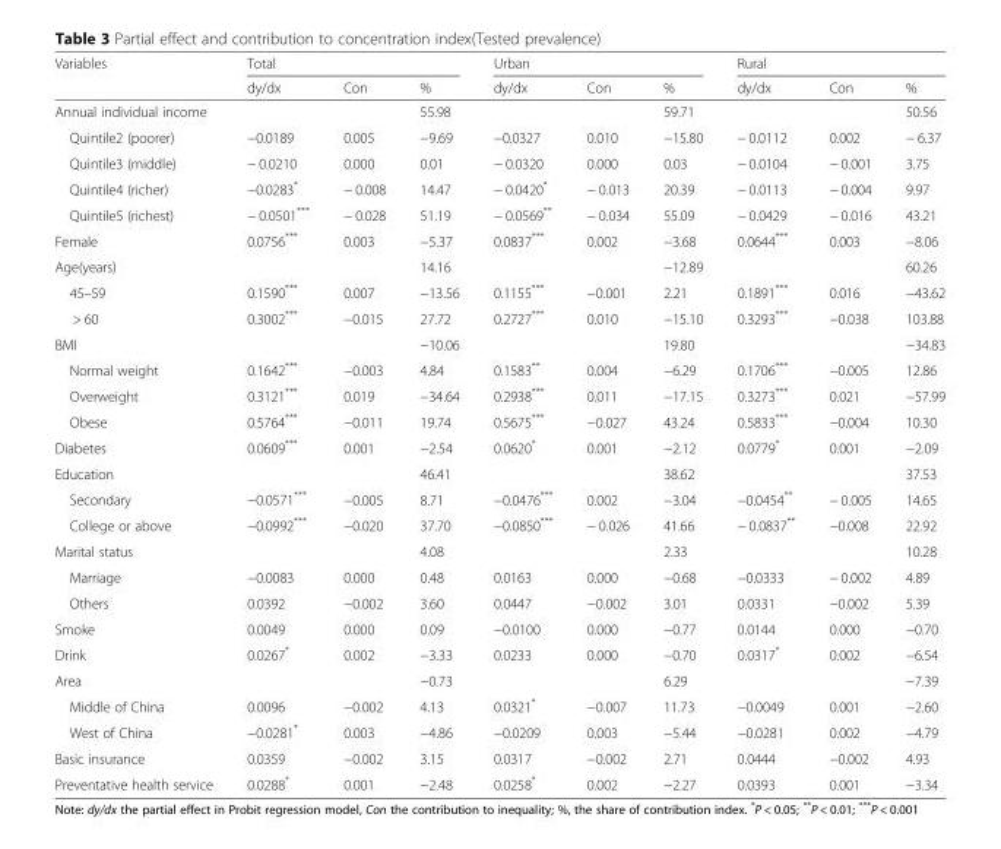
<table><thead><tr><td rowspan="2">Variables</td><td colspan="3">Total</td><td colspan="3">Urban</td><td colspan="3">Rural</td></tr><tr><td>dy/dx</td><td>Con</td><td>%</td><td>dy/dx</td><td>Con</td><td>%</td><td>dy/dx</td><td>Con</td><td>%</td></tr></thead><tbody><tr><td>Annual individual income</td><td></td><td></td><td>55.98</td><td></td><td></td><td>59.71</td><td></td><td></td><td>50.56</td></tr><tr><td>Quintile2 (poorer)</td><td>−0.0189</td><td>0.005</td><td>−9.69</td><td>−0.0327</td><td>0.010</td><td>−15.80</td><td>− 0.0112</td><td>0.002</td><td>− 6.37</td></tr><tr><td>Quintile3 (middle)</td><td>− 0.0210</td><td>0.000</td><td>0.01</td><td>− 0.0320</td><td>0.000</td><td>0.03</td><td>− 0.0104</td><td>− 0.001</td><td>3.75</td></tr><tr><td>Quintile4 (richer)</td><td>−0.0283*</td><td>− 0.008</td><td>14.47</td><td>− 0.0420*</td><td>− 0.013</td><td>20.39</td><td>− 0.0113</td><td>− 0.004</td><td>9.97</td></tr><tr><td>Quintile5 (richest)</td><td>− 0.0501***</td><td>− 0.028</td><td>51.19</td><td>− 0.0569**</td><td>− 0.034</td><td>55.09</td><td>− 0.0429</td><td>− 0.016</td><td>43.21</td></tr><tr><td>Female</td><td>0.0756***</td><td>0.003</td><td>−5.37</td><td>0.0837***</td><td>0.002</td><td>−3.68</td><td>0.0644***</td><td>0.003</td><td>−8.06</td></tr><tr><td>Age(years)</td><td></td><td></td><td>14.16</td><td></td><td></td><td>−12.89</td><td></td><td></td><td>60.26</td></tr><tr><td>45–59</td><td>0.1590***</td><td>0.007</td><td>−13.56</td><td>0.1155***</td><td>−0.001</td><td>2.21</td><td>0.1891***</td><td>0.016</td><td>−43.62</td></tr><tr><td>&gt; 60</td><td>0.3002***</td><td>−0.015</td><td>27.72</td><td>0.2727***</td><td>0.010</td><td>−15.10</td><td>0.3293***</td><td>−0.038</td><td>103.88</td></tr><tr><td>BMI</td><td></td><td></td><td>−10.06</td><td></td><td></td><td>19.80</td><td></td><td></td><td>−34.83</td></tr><tr><td>Normal weight</td><td>0.1642***</td><td>−0.003</td><td>4.84</td><td>0.1583**</td><td>0.004</td><td>−6.29</td><td>0.1706***</td><td>−0.005</td><td>12.86</td></tr><tr><td>Overweight</td><td>0.3121***</td><td>0.019</td><td>−34.64</td><td>0.2938***</td><td>0.011</td><td>−17.15</td><td>0.3273***</td><td>0.021</td><td>−57.99</td></tr><tr><td>Obese</td><td>0.5764***</td><td>−0.011</td><td>19.74</td><td>0.5675***</td><td>−0.027</td><td>43.24</td><td>0.5833***</td><td>−0.004</td><td>10.30</td></tr><tr><td>Diabetes</td><td>0.0609***</td><td>0.001</td><td>−2.54</td><td>0.0620*</td><td>0.001</td><td>−2.12</td><td>0.0779*</td><td>0.001</td><td>−2.09</td></tr><tr><td>Education</td><td></td><td></td><td>46.41</td><td></td><td></td><td>38.62</td><td></td><td></td><td>37.53</td></tr><tr><td>Secondary</td><td>−0.0571***</td><td>−0.005</td><td>8.71</td><td>−0.0476***</td><td>0.002</td><td>−3.04</td><td>−0.0454**</td><td>− 0.005</td><td>14.65</td></tr><tr><td>College or above</td><td>−0.0992***</td><td>−0.020</td><td>37.70</td><td>−0.0850***</td><td>− 0.026</td><td>41.66</td><td>− 0.0837**</td><td>−0.008</td><td>22.92</td></tr><tr><td>Marital status</td><td></td><td></td><td>4.08</td><td></td><td></td><td>2.33</td><td></td><td></td><td>10.28</td></tr><tr><td>Marriage</td><td>−0.0083</td><td>0.000</td><td>0.48</td><td>0.0163</td><td>0.000</td><td>−0.68</td><td>−0.0333</td><td>− 0.002</td><td>4.89</td></tr><tr><td>Others</td><td>0.0392</td><td>−0.002</td><td>3.60</td><td>0.0447</td><td>−0.002</td><td>3.01</td><td>0.0331</td><td>−0.002</td><td>5.39</td></tr><tr><td>Smoke</td><td>0.0049</td><td>0.000</td><td>0.09</td><td>−0.0100</td><td>0.000</td><td>−0.77</td><td>0.0144</td><td>0.000</td><td>−0.70</td></tr><tr><td>Drink</td><td>0.0267*</td><td>0.002</td><td>−3.33</td><td>0.0233</td><td>0.000</td><td>−0.70</td><td>0.0317*</td><td>0.002</td><td>−6.54</td></tr><tr><td>Area</td><td></td><td></td><td>−0.73</td><td></td><td></td><td>6.29</td><td></td><td></td><td>−7.39</td></tr><tr><td>Middle of China</td><td>0.0096</td><td>−0.002</td><td>4.13</td><td>0.0321*</td><td>−0.007</td><td>11.73</td><td>−0.0049</td><td>0.001</td><td>−2.60</td></tr><tr><td>West of China</td><td>−0.0281*</td><td>0.003</td><td>−4.86</td><td>−0.0209</td><td>0.003</td><td>−5.44</td><td>−0.0281</td><td>0.002</td><td>−4.79</td></tr><tr><td>Basic insurance</td><td>0.0359</td><td>−0.002</td><td>3.15</td><td>0.0317</td><td>−0.002</td><td>2.71</td><td>0.0444</td><td>−0.002</td><td>4.93</td></tr><tr><td>Preventative health service</td><td>0.0288*</td><td>0.001</td><td>−2.48</td><td>0.0258*</td><td>0.002</td><td>−2.27</td><td>0.0393</td><td>0.001</td><td>−3.34</td></tr></tbody></table>